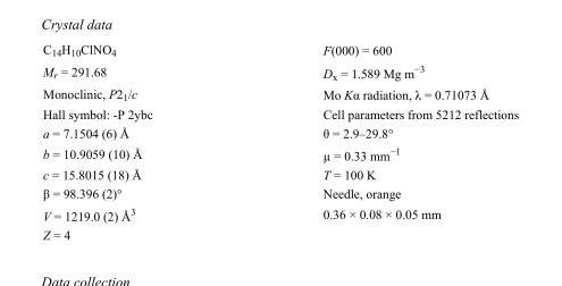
<table><tbody><tr><td>C<sub>14</sub>H<sub>10</sub>ClNO<sub>4</sub></td><td>F(000) = 600</td></tr><tr><td>M<sub>r</sub> = 291.68</td><td>D<sub>x</sub> = 1.589 Mg m<sup>−3</sup></td></tr><tr><td>Monoclinic, P2<sub>1</sub>/c</td><td>Mo Kα radiation, λ = 0.71073 Å</td></tr><tr><td>Hall symbol: -P 2ybc</td><td>Cell parameters from 5212 reflections</td></tr><tr><td>a = 7.1504 (6) Å</td><td>θ = 2.9–29.8°</td></tr><tr><td>b = 10.9059 (10) Å</td><td>µ = 0.33 mm<sup>−1</sup></td></tr><tr><td>c = 15.8015 (18) Å</td><td>T = 100 K</td></tr><tr><td>β = 98.396 (2)°</td><td>Needle, orange</td></tr><tr><td>V = 1219.0 (2) Å<sup>3</sup></td><td>0.36 × 0.08 × 0.05 mm</td></tr><tr><td>Z = 4</td><td></td></tr></tbody></table>